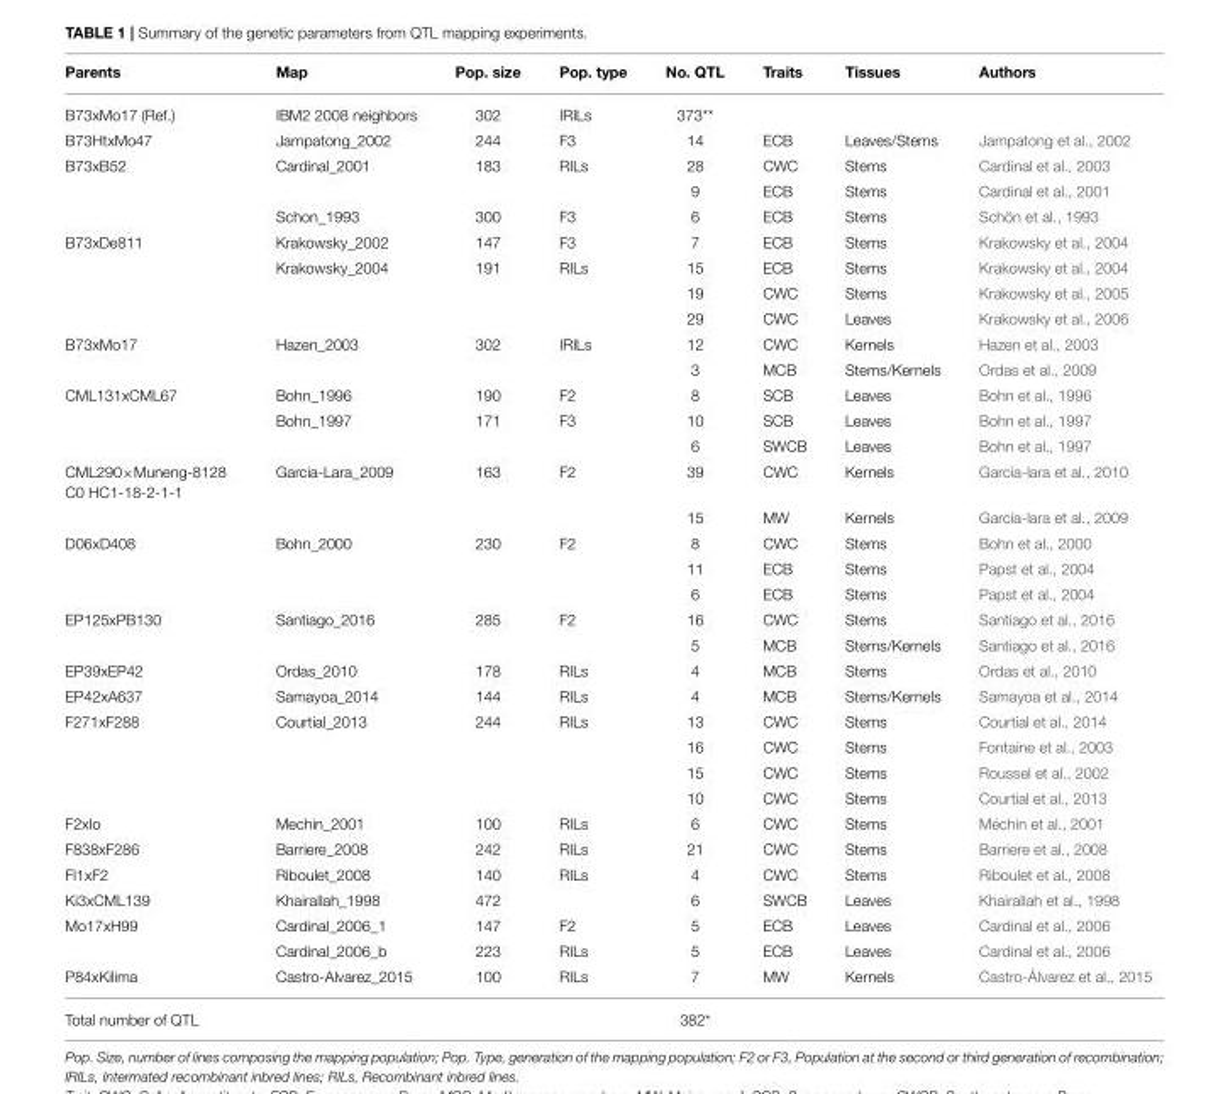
<table><thead><tr><td>Parents</td><td>Map</td><td>Pop. size</td><td>Pop. type</td><td>No. QTL</td><td>Traits</td><td>Tissues</td><td>Authors</td></tr></thead><tbody><tr><td>B73xMo17 (Ref.)</td><td>IBM2 2008 neighbors</td><td>302</td><td>IRILs</td><td>373**</td><td></td><td></td><td></td></tr><tr><td>B73HtxMo47</td><td>Jampatong_2002</td><td>244</td><td>F3</td><td>14</td><td>ECB</td><td>Leaves/Stems</td><td>Jampatong et al., 2002</td></tr><tr><td rowspan="3">B73xB52</td><td>Cardinal_2001</td><td>183</td><td>RILs</td><td>28</td><td>CWC</td><td>Stems</td><td>Cardinal et al., 2003</td></tr><tr><td></td><td></td><td></td><td>9</td><td>ECB</td><td>Stems</td><td>Cardinal et al., 2001</td></tr><tr><td>Schon_1993</td><td>300</td><td>F3</td><td>6</td><td>ECB</td><td>Stems</td><td>Schön et al., 1993</td></tr><tr><td rowspan="4">B73xDe811</td><td>Krakowsky_2002</td><td>147</td><td>F3</td><td>7</td><td>ECB</td><td>Stems</td><td>Krakowsky et al., 2004</td></tr><tr><td>Krakowsky_2004</td><td>191</td><td>RILs</td><td>15</td><td>ECB</td><td>Stems</td><td>Krakowsky et al., 2004</td></tr><tr><td></td><td></td><td></td><td>19</td><td>CWC</td><td>Stems</td><td>Krakowsky et al., 2005</td></tr><tr><td></td><td></td><td></td><td>29</td><td>CWC</td><td>Leaves</td><td>Krakowsky et al., 2006</td></tr><tr><td rowspan="2">B73xMo17</td><td>Hazen_2003</td><td>302</td><td>IRILs</td><td>12</td><td>CWC</td><td>Kernels</td><td>Hazen et al., 2003</td></tr><tr><td></td><td></td><td></td><td>3</td><td>MCB</td><td>Stems/Kernels</td><td>Ordas et al., 2009</td></tr><tr><td rowspan="3">CML131xCML67</td><td>Bohn_1996</td><td>190</td><td>F2</td><td>8</td><td>SCB</td><td>Leaves</td><td>Bohn et al., 1996</td></tr><tr><td>Bohn_1997</td><td>171</td><td>F3</td><td>10</td><td>SCB</td><td>Leaves</td><td>Bohn et al., 1997</td></tr><tr><td></td><td></td><td></td><td>6</td><td>SWCB</td><td>Leaves</td><td>Bohn et al., 1997</td></tr><tr><td rowspan="2">CML290×Muneng-8128 C0 HC1-18-2-1-1</td><td>Garcia-Lara_2009</td><td>163</td><td>F2</td><td>39</td><td>CWC</td><td>Kernels</td><td>García-lara et al., 2010</td></tr><tr><td></td><td></td><td></td><td>15</td><td>MW</td><td>Kernels</td><td>García-lara et al., 2009</td></tr><tr><td rowspan="3">D06xD408</td><td>Bohn_2000</td><td>230</td><td>F2</td><td>8</td><td>CWC</td><td>Stems</td><td>Bohn et al., 2000</td></tr><tr><td></td><td></td><td></td><td>11</td><td>ECB</td><td>Stems</td><td>Papst et al., 2004</td></tr><tr><td></td><td></td><td></td><td>6</td><td>ECB</td><td>Stems</td><td>Papst et al., 2004</td></tr><tr><td rowspan="2">EP125xPB130</td><td>Santiago_2016</td><td>285</td><td>F2</td><td>16</td><td>CWC</td><td>Stems</td><td>Santiago et al., 2016</td></tr><tr><td></td><td></td><td></td><td>5</td><td>MCB</td><td>Stems/Kernels</td><td>Santiago et al., 2016</td></tr><tr><td>EP39xEP42</td><td>Ordas_2010</td><td>178</td><td>RILs</td><td>4</td><td>MCB</td><td>Stems</td><td>Ordas et al., 2010</td></tr><tr><td>EP42xA637</td><td>Samayoa_2014</td><td>144</td><td>RILs</td><td>4</td><td>MCB</td><td>Stems/Kernels</td><td>Samayoa et al., 2014</td></tr><tr><td rowspan="4">F271xF288</td><td>Courtial_2013</td><td>244</td><td>RILs</td><td>13</td><td>CWC</td><td>Stems</td><td>Courtial et al., 2014</td></tr><tr><td></td><td></td><td></td><td>16</td><td>CWC</td><td>Stems</td><td>Fontaine et al., 2003</td></tr><tr><td></td><td></td><td></td><td>15</td><td>CWC</td><td>Stems</td><td>Roussel et al., 2002</td></tr><tr><td></td><td></td><td></td><td>10</td><td>CWC</td><td>Stems</td><td>Courtial et al., 2013</td></tr><tr><td>F2xIo</td><td>Mechin_2001</td><td>100</td><td>RILs</td><td>6</td><td>CWC</td><td>Stems</td><td>Méchin et al., 2001</td></tr><tr><td>F838xF286</td><td>Barriere_2008</td><td>242</td><td>RILs</td><td>21</td><td>CWC</td><td>Stems</td><td>Barriere et al., 2008</td></tr><tr><td>Fl1xF2</td><td>Riboulet_2008</td><td>140</td><td>RILs</td><td>4</td><td>CWC</td><td>Stems</td><td>Riboulet et al., 2008</td></tr><tr><td>Ki3xCML139</td><td>Khairallah_1998</td><td>472</td><td></td><td>6</td><td>SWCB</td><td>Leaves</td><td>Khairallah et al., 1998</td></tr><tr><td rowspan="2">Mo17xH99</td><td>Cardinal_2006_1</td><td>147</td><td>F2</td><td>5</td><td>ECB</td><td>Leaves</td><td>Cardinal et al., 2006</td></tr><tr><td>Cardinal_2006_b</td><td>223</td><td>RILs</td><td>5</td><td>ECB</td><td>Leaves</td><td>Cardinal et al., 2006</td></tr><tr><td>P84xKilima</td><td>Castro-Alvarez_2015</td><td>100</td><td>RILs</td><td>7</td><td>MW</td><td>Kernels</td><td>Castro-Álvarez et al., 2015</td></tr><tr><td>Total number of QTL</td><td></td><td></td><td></td><td>382*</td><td></td><td></td><td></td></tr></tbody></table>